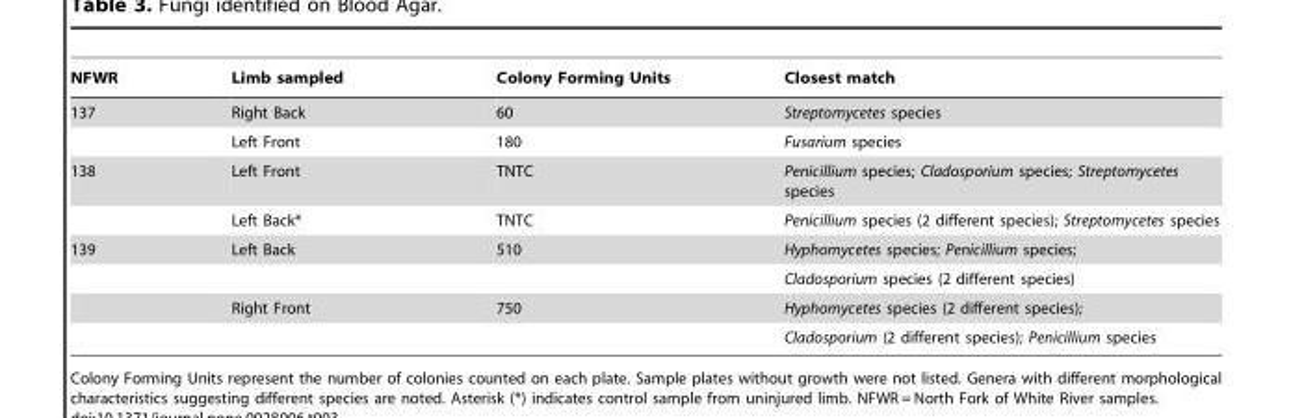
<table><thead><tr><td>NFWR</td><td>Limb sampled</td><td>Colony Forming Units</td><td>Closest match</td></tr></thead><tbody><tr><td rowspan="2">137</td><td>Right Back</td><td>60</td><td>Streptomycetes species</td></tr><tr><td>Left Front</td><td>180</td><td>Fusarium species</td></tr><tr><td rowspan="2">138</td><td>Left Front</td><td>TNTC</td><td>Penicillium species; Cladosporium species; Streptomycetes species</td></tr><tr><td>Left Back*</td><td>TNTC</td><td>Penicillium species (2 different species); Streptomycetes species</td></tr><tr><td rowspan="4">139</td><td>Left Back</td><td>510</td><td>Hyphomycetes species; Penicillium species;</td></tr><tr><td></td><td></td><td>Cladosporium species (2 different species)</td></tr><tr><td>Right Front</td><td>750</td><td>Hyphomycetes species (2 different species);</td></tr><tr><td></td><td></td><td>Cladosporium (2 different species); Penicillium species</td></tr></tbody></table>